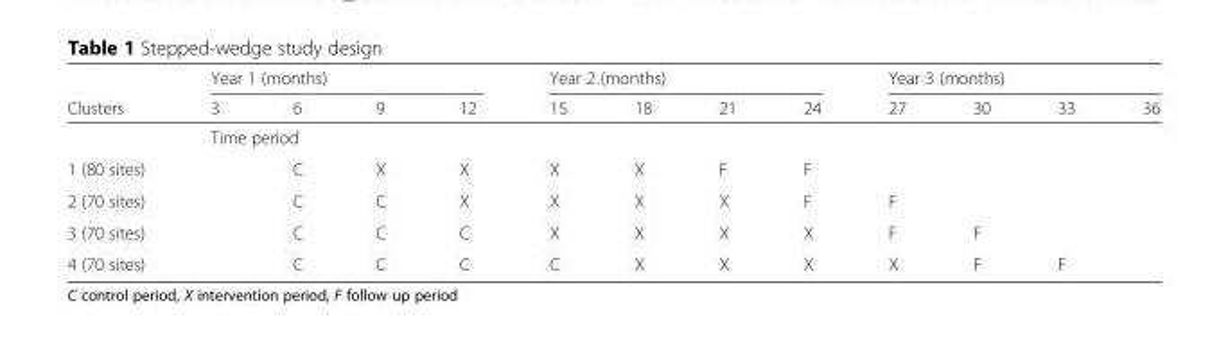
<table><thead><tr><td rowspan="2">Clusters</td><td colspan="4">Year 1 (months)</td><td colspan="4">Year 2 (months)</td><td colspan="4">Year 3 (months)</td></tr><tr><td>3</td><td>6</td><td>9</td><td>12</td><td>15</td><td>18</td><td>21</td><td>24</td><td>27</td><td>30</td><td>33</td><td>36</td></tr></thead><tbody><tr><td></td><td colspan="12">Time period</td></tr><tr><td>1 (80 sites)</td><td></td><td>C</td><td>X</td><td>X</td><td>X</td><td>X</td><td>F</td><td>F</td><td></td><td></td><td></td><td></td></tr><tr><td>2 (70 sites)</td><td></td><td>C</td><td>C</td><td>X</td><td>X</td><td>X</td><td>X</td><td>F</td><td>F</td><td></td><td></td><td></td></tr><tr><td>3 (70 sites)</td><td></td><td>C</td><td>C</td><td>C</td><td>X</td><td>X</td><td>X</td><td>X</td><td>F</td><td>F</td><td></td><td></td></tr><tr><td>4 (70 sites)</td><td></td><td>C</td><td>C</td><td>C</td><td>C</td><td>X</td><td>X</td><td>X</td><td>X</td><td>F</td><td>F</td><td></td></tr></tbody></table>